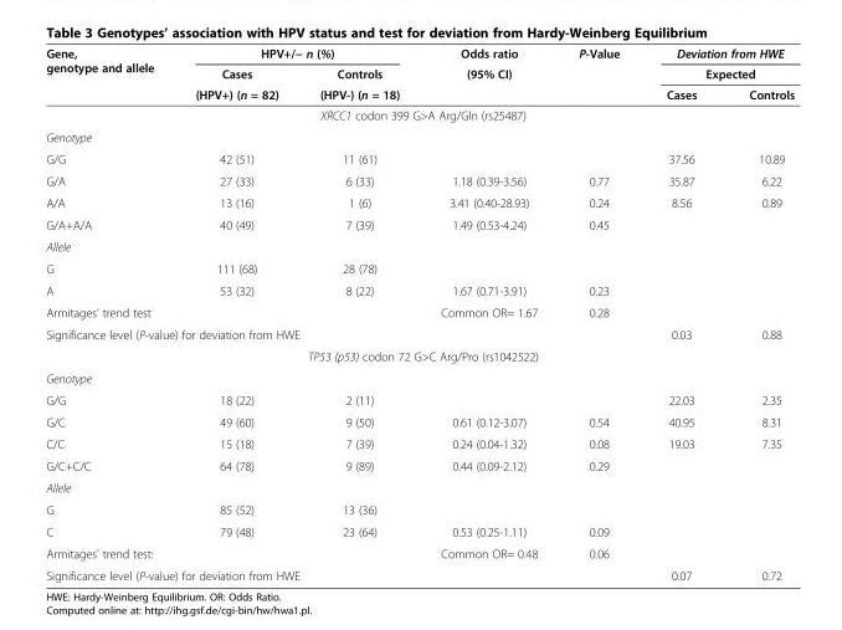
<table><thead><tr><td rowspan="3">Gene, genotype and allele</td><td colspan="2">HPV+/− n (%)</td><td rowspan="3">Odds ratio (95% CI)</td><td rowspan="3">P-Value</td><td rowspan="2" colspan="2">Deviation from HWE Expected</td></tr><tr><td rowspan="2">Cases (HPV+) (n = 82)</td><td rowspan="2">Controls (HPV-) (n = 18)</td></tr><tr><td>Cases</td><td>Controls</td></tr></thead><tbody><tr><td colspan="7">XRCC1 codon 399 G&gt;A Arg/Gln (rs25487)</td></tr><tr><td colspan="7">Genotype</td></tr><tr><td>G/G</td><td>42 (51)</td><td>11 (61)</td><td></td><td></td><td>37.56</td><td>10.89</td></tr><tr><td>G/A</td><td>27 (33)</td><td>6 (33)</td><td>1.18 (0.39-3.56)</td><td>0.77</td><td>35.87</td><td>6.22</td></tr><tr><td>A/A</td><td>13 (16)</td><td>1 (6)</td><td>3.41 (0.40-28.93)</td><td>0.24</td><td>8.56</td><td>0.89</td></tr><tr><td>G/A+A/A</td><td>40 (49)</td><td>7 (39)</td><td>1.49 (0.53-4.24)</td><td>0.45</td><td></td><td></td></tr><tr><td colspan="7">Allele</td></tr><tr><td>G</td><td>111 (68)</td><td>28 (78)</td><td></td><td></td><td></td><td></td></tr><tr><td>A</td><td>53 (32)</td><td>8 (22)</td><td>1.67 (0.71-3.91)</td><td>0.23</td><td></td><td></td></tr><tr><td colspan="3">Armitages’ trend test</td><td>Common OR= 1.67</td><td>0.28</td><td></td><td></td></tr><tr><td colspan="5">Significance level (P-value) for deviation from HWE</td><td>0.03</td><td>0.88</td></tr><tr><td colspan="7">TP53 (p53) codon 72 G&gt;C Arg/Pro (rs1042522)</td></tr><tr><td colspan="7">Genotype</td></tr><tr><td>G/G</td><td>18 (22)</td><td>2 (11)</td><td></td><td></td><td>22.03</td><td>2.35</td></tr><tr><td>G/C</td><td>49 (60)</td><td>9 (50)</td><td>0.61 (0.12-3.07)</td><td>0.54</td><td>40.95</td><td>8.31</td></tr><tr><td>C/C</td><td>15 (18)</td><td>7 (39)</td><td>0.24 (0.04-1.32)</td><td>0.08</td><td>19.03</td><td>7.35</td></tr><tr><td>G/C+C/C</td><td>64 (78)</td><td>9 (89)</td><td>0.44 (0.09-2.12)</td><td>0.29</td><td></td><td></td></tr><tr><td colspan="7">Allele</td></tr><tr><td>G</td><td>85 (52)</td><td>13 (36)</td><td></td><td></td><td></td><td></td></tr><tr><td>C</td><td>79 (48)</td><td>23 (64)</td><td>0.53 (0.25-1.11)</td><td>0.09</td><td></td><td></td></tr><tr><td colspan="3">Armitages’ trend test:</td><td>Common OR= 0.48</td><td>0.06</td><td></td><td></td></tr><tr><td colspan="5">Significance level (P-value) for deviation from HWE</td><td>0.07</td><td>0.72</td></tr></tbody></table>